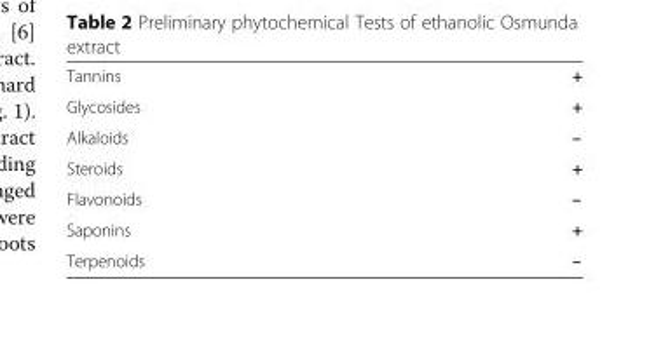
<table><tbody><tr><td>Tannins</td><td>+</td></tr><tr><td>Glycosides</td><td>+</td></tr><tr><td>Alkaloids</td><td>–</td></tr><tr><td>Steroids</td><td>+</td></tr><tr><td>Flavonoids</td><td>–</td></tr><tr><td>Saponins</td><td>+</td></tr><tr><td>Terpenoids</td><td>–</td></tr></tbody></table>